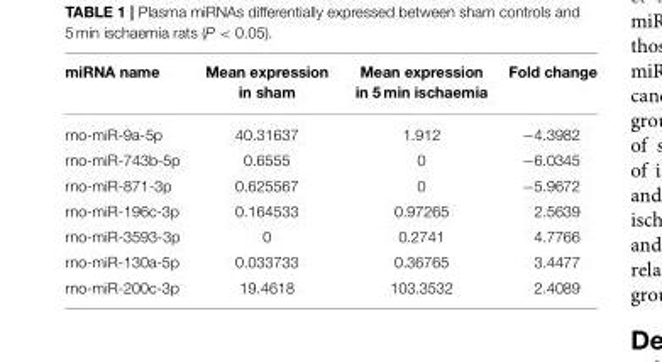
<table><thead><tr><td>miRNA name</td><td>Mean expression in sham</td><td>Mean expression in 5 min ischaemia</td><td>Fold change</td></tr></thead><tbody><tr><td>rno-miR-9a-5p</td><td>40.31637</td><td>1.912</td><td>−4.3982</td></tr><tr><td>rno-miR-743b-5p</td><td>0.6555</td><td>0</td><td>−6.0345</td></tr><tr><td>rno-miR-871-3p</td><td>0.625567</td><td>0</td><td>−5.9672</td></tr><tr><td>rno-miR-196c-3p</td><td>0.164533</td><td>0.97265</td><td>2.5639</td></tr><tr><td>rno-miR-3593-3p</td><td>0</td><td>0.2741</td><td>4.7766</td></tr><tr><td>rno-miR-130a-5p</td><td>0.033733</td><td>0.36765</td><td>3.4477</td></tr><tr><td>rno-miR-200c-3p</td><td>19.4618</td><td>103.3532</td><td>2.4089</td></tr></tbody></table>